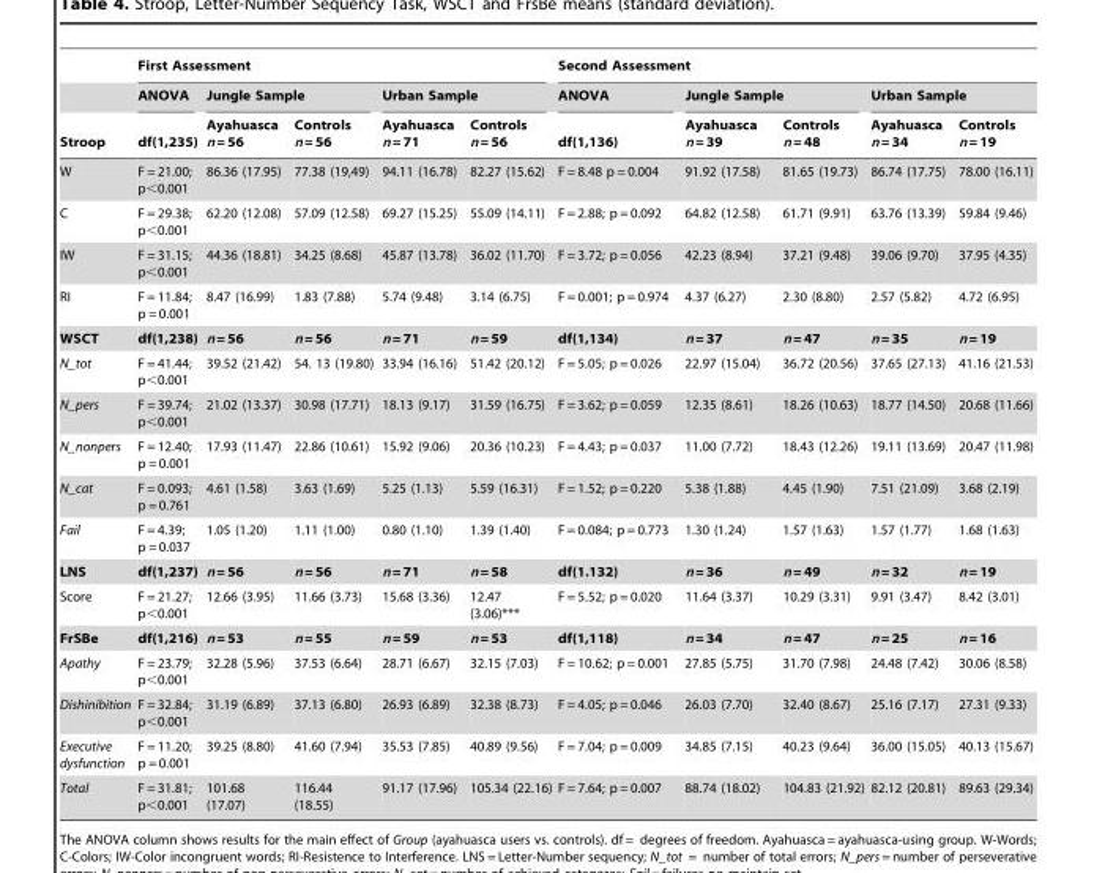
<table><thead><tr><td rowspan="3">Stroop</td><td colspan="5">First Assessment</td><td colspan="5">Second Assessment</td></tr><tr><td rowspan="2">ANOVA df(1,235)</td><td colspan="2">Jungle Sample</td><td colspan="2">Urban Sample</td><td rowspan="2">ANOVA df(1,136)</td><td colspan="2">Jungle Sample</td><td colspan="2">Urban Sample</td></tr><tr><td>Ayahuasca n = 56</td><td>Controls n = 56</td><td>Ayahuasca n = 71</td><td>Controls n = 56</td><td>Ayahuasca n = 39</td><td>Controls n = 48</td><td>Ayahuasca n = 34</td><td>Controls n = 19</td></tr></thead><tbody><tr><td>W</td><td>F = 21.00; p&lt;0.001</td><td>86.36 (17.95)</td><td>77.38 (19,49)</td><td>94.11 (16.78)</td><td>82.27 (15.62)</td><td>F = 8.48 p = 0.004</td><td>91.92 (17.58)</td><td>81.65 (19.73)</td><td>86.74 (17.75)</td><td>78.00 (16.11)</td></tr><tr><td>C</td><td>F = 29.38; p&lt;0.001</td><td>62.20 (12.08)</td><td>57.09 (12.58)</td><td>69.27 (15.25)</td><td>55.09 (14.11)</td><td>F = 2.88; p = 0.092</td><td>64.82 (12.58)</td><td>61.71 (9.91)</td><td>63.76 (13.39)</td><td>59.84 (9.46)</td></tr><tr><td>IW</td><td>F = 31.15; p&lt;0.001</td><td>44.36 (18.81)</td><td>34.25 (8.68)</td><td>45.87 (13.78)</td><td>36.02 (11.70)</td><td>F = 3.72; p = 0.056</td><td>42.23 (8.94)</td><td>37.21 (9.48)</td><td>39.06 (9.70)</td><td>37.95 (4.35)</td></tr><tr><td>RI</td><td>F = 11.84; p = 0.001</td><td>8.47 (16.99)</td><td>1.83 (7.88)</td><td>5.74 (9.48)</td><td>3.14 (6.75)</td><td>F = 0.001; p = 0.974</td><td>4.37 (6.27)</td><td>2.30 (8.80)</td><td>2.57 (5.82)</td><td>4.72 (6.95)</td></tr><tr><td>WSCT</td><td>df(1,238)</td><td>n = 56</td><td>n = 56</td><td>n = 71</td><td>n = 59</td><td>df(1,134)</td><td>n = 37</td><td>n = 47</td><td>n = 35</td><td>n = 19</td></tr><tr><td>N_tot</td><td>F = 41.44; p&lt;0.001</td><td>39.52 (21.42)</td><td>54. 13 (19.80)</td><td>33.94 (16.16)</td><td>51.42 (20.12)</td><td>F = 5.05; p = 0.026</td><td>22.97 (15.04)</td><td>36.72 (20.56)</td><td>37.65 (27.13)</td><td>41.16 (21.53)</td></tr><tr><td>N_pers</td><td>F = 39.74; p&lt;0.001</td><td>21.02 (13.37)</td><td>30.98 (17.71)</td><td>18.13 (9.17)</td><td>31.59 (16.75)</td><td>F = 3.62; p = 0.059</td><td>12.35 (8.61)</td><td>18.26 (10.63)</td><td>18.77 (14.50)</td><td>20.68 (11.66)</td></tr><tr><td>N_nonpers</td><td>F = 12.40; p = 0.001</td><td>17.93 (11.47)</td><td>22.86 (10.61)</td><td>15.92 (9.06)</td><td>20.36 (10.23)</td><td>F = 4.43; p = 0.037</td><td>11.00 (7.72)</td><td>18.43 (12.26)</td><td>19.11 (13.69)</td><td>20.47 (11.98)</td></tr><tr><td>N_cat</td><td>F = 0.093; p = 0.761</td><td>4.61 (1.58)</td><td>3.63 (1.69)</td><td>5.25 (1.13)</td><td>5.59 (16.31)</td><td>F = 1.52; p = 0.220</td><td>5.38 (1.88)</td><td>4.45 (1.90)</td><td>7.51 (21.09)</td><td>3.68 (2.19)</td></tr><tr><td>Fail</td><td>F = 4.39; p = 0.037</td><td>1.05 (1.20)</td><td>1.11 (1.00)</td><td>0.80 (1.10)</td><td>1.39 (1.40)</td><td>F = 0.084; p = 0.773</td><td>1.30 (1.24)</td><td>1.57 (1.63)</td><td>1.57 (1.77)</td><td>1.68 (1.63)</td></tr><tr><td>LNS</td><td>df(1,237)</td><td>n = 56</td><td>n = 56</td><td>n = 71</td><td>n = 58</td><td>df(1.132)</td><td>n = 36</td><td>n = 49</td><td>n = 32</td><td>n = 19</td></tr><tr><td>Score</td><td>F = 21.27; p&lt;0.001</td><td>12.66 (3.95)</td><td>11.66 (3.73)</td><td>15.68 (3.36)</td><td>12.47 (3.06)***</td><td>F = 5.52; p = 0.020</td><td>11.64 (3.37)</td><td>10.29 (3.31)</td><td>9.91 (3.47)</td><td>8.42 (3.01)</td></tr><tr><td>FrSBe</td><td>df(1,216)</td><td>n = 53</td><td>n = 55</td><td>n = 59</td><td>n = 53</td><td>df(1,118)</td><td>n = 34</td><td>n = 47</td><td>n = 25</td><td>n = 16</td></tr><tr><td>Apathy</td><td>F = 23.79; p&lt;0.001</td><td>32.28 (5.96)</td><td>37.53 (6.64)</td><td>28.71 (6.67)</td><td>32.15 (7.03)</td><td>F = 10.62; p = 0.001</td><td>27.85 (5.75)</td><td>31.70 (7.98)</td><td>24.48 (7.42)</td><td>30.06 (8.58)</td></tr><tr><td>Dishinibition</td><td>F = 32.84; p&lt;0.001</td><td>31.19 (6.89)</td><td>37.13 (6.80)</td><td>26.93 (6.89)</td><td>32.38 (8.73)</td><td>F = 4.05; p = 0.046</td><td>26.03 (7.70)</td><td>32.40 (8.67)</td><td>25.16 (7.17)</td><td>27.31 (9.33)</td></tr><tr><td>Executive dysfunction</td><td>F = 11.20; p = 0.001</td><td>39.25 (8.80)</td><td>41.60 (7.94)</td><td>35.53 (7.85)</td><td>40.89 (9.56)</td><td>F = 7.04; p = 0.009</td><td>34.85 (7.15)</td><td>40.23 (9.64)</td><td>36.00 (15.05)</td><td>40.13 (15.67)</td></tr><tr><td>Total</td><td>F = 31.81; p&lt;0.001</td><td>101.68 (17.07)</td><td>116.44 (18.55)</td><td>91.17 (17.96)</td><td>105.34 (22.16)</td><td>F = 7.64; p = 0.007</td><td>88.74 (18.02)</td><td>104.83 (21.92)</td><td>82.12 (20.81)</td><td>89.63 (29.34)</td></tr></tbody></table>